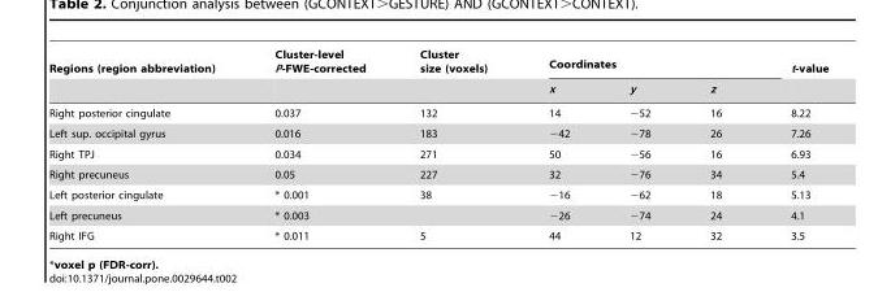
<table><thead><tr><td rowspan="2">Regions (region abbreviation)</td><td rowspan="2">Cluster-level P-FWE-corrected</td><td rowspan="2">Cluster size (voxels)</td><td colspan="3">Coordinates</td><td rowspan="2">t-value</td></tr><tr><td>x</td><td>y</td><td>z</td></tr></thead><tbody><tr><td>Right posterior cingulate</td><td>0.037</td><td>132</td><td>14</td><td>−52</td><td>16</td><td>8.22</td></tr><tr><td>Left sup. occipital gyrus</td><td>0.016</td><td>183</td><td>−42</td><td>−78</td><td>26</td><td>7.26</td></tr><tr><td>Right TPJ</td><td>0.034</td><td>271</td><td>50</td><td>−56</td><td>16</td><td>6.93</td></tr><tr><td>Right precuneus</td><td>0.05</td><td>227</td><td>32</td><td>−76</td><td>34</td><td>5.4</td></tr><tr><td>Left posterior cingulate</td><td>* 0.001</td><td>38</td><td>−16</td><td>−62</td><td>18</td><td>5.13</td></tr><tr><td>Left precuneus</td><td>* 0.003</td><td></td><td>−26</td><td>−74</td><td>24</td><td>4.1</td></tr><tr><td>Right IFG</td><td>* 0.011</td><td>5</td><td>44</td><td>12</td><td>32</td><td>3.5</td></tr></tbody></table>